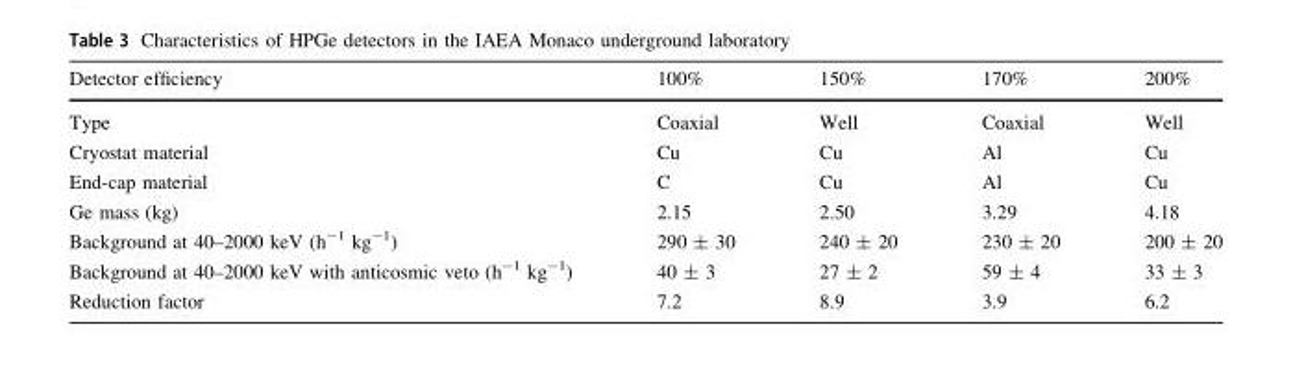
<table><thead><tr><td>Detector efficiency</td><td>100%</td><td>150%</td><td>170%</td><td>200%</td></tr></thead><tbody><tr><td>Type</td><td>Coaxial</td><td>Well</td><td>Coaxial</td><td>Well</td></tr><tr><td>Cryostat material</td><td>Cu</td><td>Cu</td><td>Al</td><td>Cu</td></tr><tr><td>End-cap material</td><td>C</td><td>Cu</td><td>Al</td><td>Cu</td></tr><tr><td>Ge mass (kg)</td><td>2.15</td><td>2.50</td><td>3.29</td><td>4.18</td></tr><tr><td>Background at 40–2000 keV (h<sup>-1</sup> kg<sup>-1</sup>)</td><td>290 ± 30</td><td>240 ± 20</td><td>230 ± 20</td><td>200 ± 20</td></tr><tr><td>Background at 40–2000 keV with anticosmic veto (h<sup>-1</sup> kg<sup>-1</sup>)</td><td>40 ± 3</td><td>27 ± 2</td><td>59 ± 4</td><td>33 ± 3</td></tr><tr><td>Reduction factor</td><td>7.2</td><td>8.9</td><td>3.9</td><td>6.2</td></tr></tbody></table>